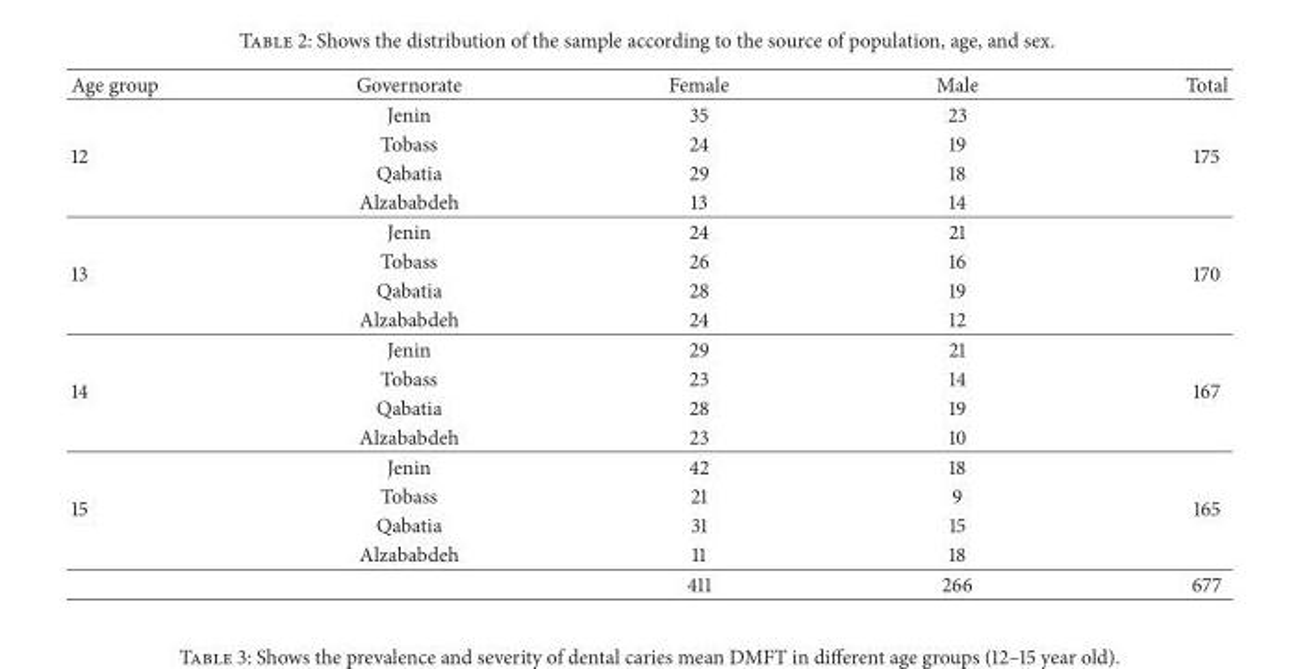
<table><thead><tr><td>Age group</td><td>Governorate</td><td>Female</td><td>Male</td><td>Total</td></tr></thead><tbody><tr><td rowspan="4">12</td><td>Jenin</td><td>35</td><td>23</td><td rowspan="4">175</td></tr><tr><td>Tobass</td><td>24</td><td>19</td></tr><tr><td>Qabatia</td><td>29</td><td>18</td></tr><tr><td>Alzababdeh</td><td>13</td><td>14</td></tr><tr><td rowspan="4">13</td><td>Jenin</td><td>24</td><td>21</td><td rowspan="4">170</td></tr><tr><td>Tobass</td><td>26</td><td>16</td></tr><tr><td>Qabatia</td><td>28</td><td>19</td></tr><tr><td>Alzababdeh</td><td>24</td><td>12</td></tr><tr><td rowspan="4">14</td><td>Jenin</td><td>29</td><td>21</td><td rowspan="4">167</td></tr><tr><td>Tobass</td><td>23</td><td>14</td></tr><tr><td>Qabatia</td><td>28</td><td>19</td></tr><tr><td>Alzababdeh</td><td>23</td><td>10</td></tr><tr><td rowspan="5">15</td><td>Jenin</td><td>42</td><td>18</td><td rowspan="4">165</td></tr><tr><td>Tobass</td><td>21</td><td>9</td></tr><tr><td>Qabatia</td><td>31</td><td>15</td></tr><tr><td>Alzababdeh</td><td>11</td><td>18</td></tr><tr><td></td><td>411</td><td>266</td><td>677</td></tr></tbody></table>